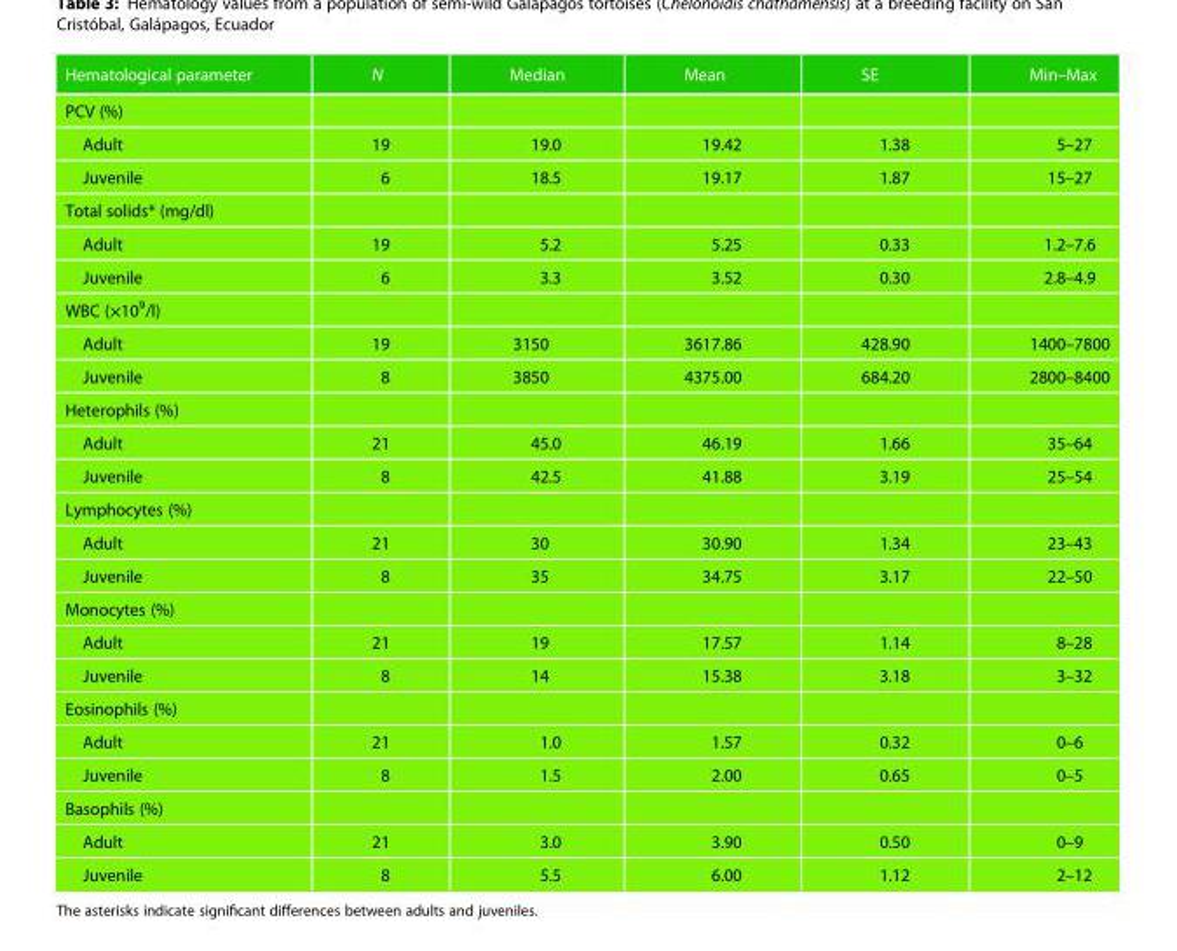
<table><thead><tr><td>Hematological parameter</td><td>N</td><td>Median</td><td>Mean</td><td>SE</td><td>Min–Max</td></tr></thead><tbody><tr><td colspan="6">PCV (%)</td></tr><tr><td>Adult</td><td>19</td><td>19.0</td><td>19.42</td><td>1.38</td><td>5–27</td></tr><tr><td>Juvenile</td><td>6</td><td>18.5</td><td>19.17</td><td>1.87</td><td>15–27</td></tr><tr><td colspan="6">Total solids* (mg/dl)</td></tr><tr><td>Adult</td><td>19</td><td>5.2</td><td>5.25</td><td>0.33</td><td>1.2–7.6</td></tr><tr><td>Juvenile</td><td>6</td><td>3.3</td><td>3.52</td><td>0.30</td><td>2.8–4.9</td></tr><tr><td colspan="6">WBC (×10<sup>9</sup>/l)</td></tr><tr><td>Adult</td><td>19</td><td>3150</td><td>3617.86</td><td>428.90</td><td>1400–7800</td></tr><tr><td>Juvenile</td><td>8</td><td>3850</td><td>4375.00</td><td>684.20</td><td>2800–8400</td></tr><tr><td colspan="6">Heterophils (%)</td></tr><tr><td>Adult</td><td>21</td><td>45.0</td><td>46.19</td><td>1.66</td><td>35–64</td></tr><tr><td>Juvenile</td><td>8</td><td>42.5</td><td>41.88</td><td>3.19</td><td>25–54</td></tr><tr><td colspan="6">Lymphocytes (%)</td></tr><tr><td>Adult</td><td>21</td><td>30</td><td>30.90</td><td>1.34</td><td>23–43</td></tr><tr><td>Juvenile</td><td>8</td><td>35</td><td>34.75</td><td>3.17</td><td>22–50</td></tr><tr><td colspan="6">Monocytes (%)</td></tr><tr><td>Adult</td><td>21</td><td>19</td><td>17.57</td><td>1.14</td><td>8–28</td></tr><tr><td>Juvenile</td><td>8</td><td>14</td><td>15.38</td><td>3.18</td><td>3–32</td></tr><tr><td colspan="6">Eosinophils (%)</td></tr><tr><td>Adult</td><td>21</td><td>1.0</td><td>1.57</td><td>0.32</td><td>0–6</td></tr><tr><td>Juvenile</td><td>8</td><td>1.5</td><td>2.00</td><td>0.65</td><td>0–5</td></tr><tr><td colspan="6">Basophils (%)</td></tr><tr><td>Adult</td><td>21</td><td>3.0</td><td>3.90</td><td>0.50</td><td>0–9</td></tr><tr><td>Juvenile</td><td>8</td><td>5.5</td><td>6.00</td><td>1.12</td><td>2–12</td></tr></tbody></table>